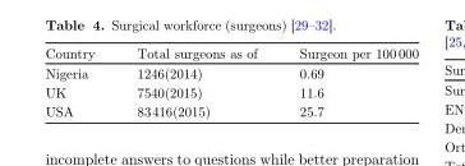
<table><thead><tr><td>Country</td><td>Total surgeons as of</td><td>Surgeon per 100 000</td></tr></thead><tbody><tr><td>Nigeria</td><td>1246(2014)</td><td>0.69</td></tr><tr><td>UK</td><td>7540(2015)</td><td>11.6</td></tr><tr><td>USA</td><td>83416(2015)</td><td>25.7</td></tr></tbody></table>